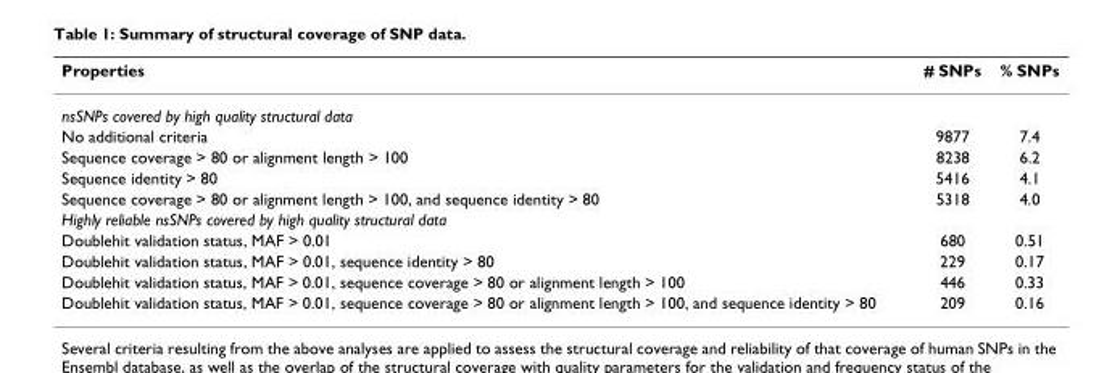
<table><thead><tr><td>Properties</td><td># SNPs</td><td>% SNPs</td></tr></thead><tbody><tr><td colspan="3">nsSNPs covered by high quality structural data</td></tr><tr><td>No additional criteria</td><td>9877</td><td>7.4</td></tr><tr><td>Sequence coverage &gt; 80 or alignment length &gt; 100</td><td>8238</td><td>6.2</td></tr><tr><td>Sequence identity &gt; 80</td><td>5416</td><td>4.1</td></tr><tr><td>Sequence coverage &gt; 80 or alignment length &gt; 100, and sequence identity &gt; 80</td><td>5318</td><td>4.0</td></tr><tr><td colspan="3">Highly reliable nsSNPs covered by high quality structural data</td></tr><tr><td>Doublehit validation status, MAF &gt; 0.01</td><td>680</td><td>0.51</td></tr><tr><td>Doublehit validation status, MAF &gt; 0.01, sequence identity &gt; 80</td><td>229</td><td>0.17</td></tr><tr><td>Doublehit validation status, MAF &gt; 0.01, sequence coverage &gt; 80 or alignment length &gt; 100</td><td>446</td><td>0.33</td></tr><tr><td>Doublehit validation status, MAF &gt; 0.01, sequence coverage &gt; 80 or alignment length &gt; 100, and sequence identity &gt; 80</td><td>209</td><td>0.16</td></tr></tbody></table>